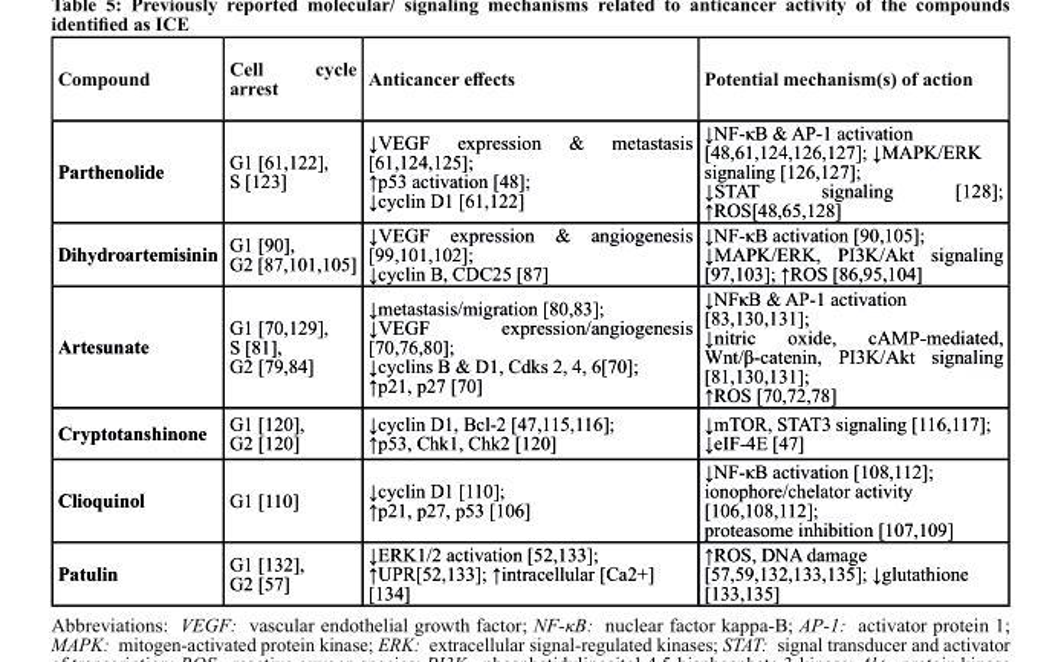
<table><thead><tr><td>compound</td><td>Cell cycle arrest</td><td>Anticancer effects</td><td>Potential mechanism(s) of action</td></tr></thead><tbody><tr><td>Parthenolide</td><td>G1 [61,122], S [123]</td><td>↓VEGF expression &amp; metastasis [61,124,125]; ↑p53 activation [48]; ↓cyclin D1 [61,122]</td><td>↓NF-κB &amp; AP-1 activation [48,61,124,126,127]; ↓MAPK/ERK signaling [126,127]; ↓STAT signaling [128]; ↑ROS[48,65,128]</td></tr><tr><td>Dihydroartemisinin</td><td>G1 [90], G2 [87,101,105]</td><td>↓VEGF expression &amp; angiogenesis [99,101,102]; ↓cyclin B, CDC25 [87]</td><td>↓NF-κB activation [90,105]; ↓MAPK/ERK, PI3K/Akt signaling [97,103]; ↑ROS [86,95,104]</td></tr><tr><td>Artesunate</td><td>G1 [70,129], S [81], G2 [79,84]</td><td>↓metastasis/migration [80,83]; ↓VEGF expression/angiogenesis [70,76,80]; ↓cyclins B &amp; D1, Cdks 2, 4, 6[70]; ↑p21, p27 [70]</td><td>↓NFκB &amp; AP-1 activation [83,130,131]; ↓nitric oxide, cAMP-mediated, Wnt/β-catenin, PI3K/Akt signaling [81,130,131]; ↑ROS [70,72,78]</td></tr><tr><td>Cryptotanshinone</td><td>G1 [120], G2 [120]</td><td>↓cyclin D1, Bcl-2 [47,115,116]; ↑p53, Chk1, Chk2 [120]</td><td>↓mTOR, STAT3 signaling [116,117]; ↓eIF-4E [47]</td></tr><tr><td>clioquinol</td><td>G1 [110]</td><td>↓cyclin D1 [110]; ↑p21, p27, p53 [106]</td><td>↓NF-κB activation [108,112]; ionophore/chelator activity [106,108,112]; proteasome inhibition [107,109]</td></tr><tr><td>Patulin</td><td>G1 [132], G2 [57]</td><td>↓ERK1/2 activation [52,133]; ↑UPR[52,133]; ↑intracellular [Ca2+] [134]</td><td>↑ROS, DNA damage [57,59,132,133,135]; ↓glutathione [133,135]</td></tr></tbody></table>